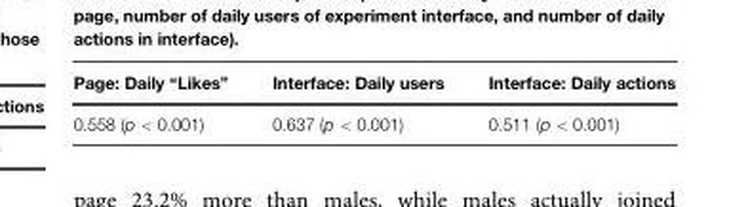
<table><thead><tr><td>Page: Daily “Likes”</td><td>Interface: Daily users</td><td>Interface: Daily actions</td></tr></thead><tbody><tr><td>0.558 (p &lt; 0.001)</td><td>0.637 (p &lt; 0.001)</td><td>0.511 (p &lt; 0.001)</td></tr></tbody></table>